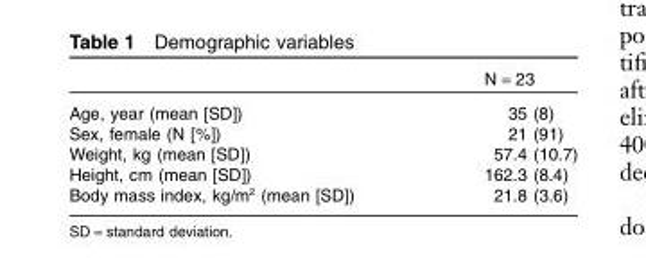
<table><thead><tr><td></td><td>N = 23</td></tr></thead><tbody><tr><td>Age, year (mean [SD])</td><td>35 (8)</td></tr><tr><td>Sex, female (N [%])</td><td>21 (91)</td></tr><tr><td>Weight, kg (mean [SD])</td><td>57.4 (10.7)</td></tr><tr><td>Height, cm (mean [SD])</td><td>162.3 (8.4)</td></tr><tr><td>Body mass index, kg/m<sup>2</sup> (mean [SD])</td><td>21.8 (3.6)</td></tr></tbody></table>